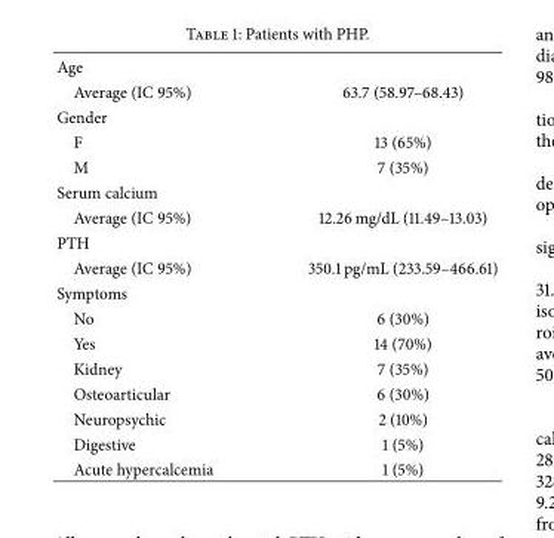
<table><tbody><tr><td colspan="2">Age</td></tr><tr><td>Average (IC 95%)</td><td>63.7 (58.97–68.43)</td></tr><tr><td colspan="2">Gender</td></tr><tr><td>F</td><td>13 (65%)</td></tr><tr><td>M</td><td>7 (35%)</td></tr><tr><td colspan="2">Serum calcium</td></tr><tr><td>Average (IC 95%)</td><td>12.26 mg/dL (11.49–13.03)</td></tr><tr><td colspan="2">PTH</td></tr><tr><td>Average (IC 95%)</td><td>350.1 pg/mL (233.59–466.61)</td></tr><tr><td colspan="2">Symptoms</td></tr><tr><td>No</td><td>6 (30%)</td></tr><tr><td>Yes</td><td>14 (70%)</td></tr><tr><td>Kidney</td><td>7 (35%)</td></tr><tr><td>Osteoarticular</td><td>6 (30%)</td></tr><tr><td>Neuropsychic</td><td>2 (10%)</td></tr><tr><td>Digestive</td><td>1 (5%)</td></tr><tr><td>Acute hypercalcemia</td><td>1 (5%)</td></tr></tbody></table>